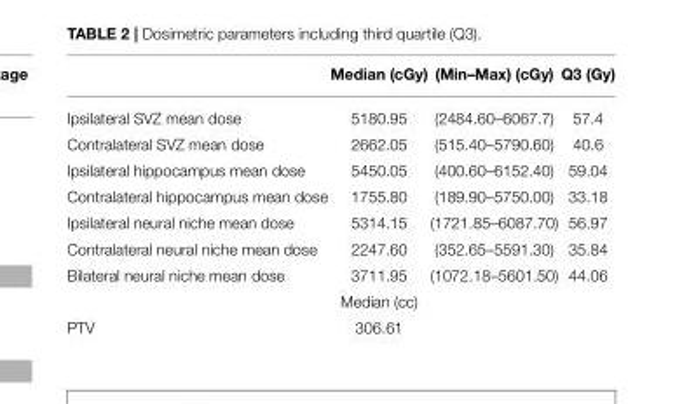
<table><thead><tr><td></td><td>Median (cGy)</td><td>(Min–Max) (cGy)</td><td>Q3 (Gy)</td></tr></thead><tbody><tr><td>Ipsilateral SVZ mean dose</td><td>5180.95</td><td>(2484.60–6067.7)</td><td>57.4</td></tr><tr><td>Contralateral SVZ mean dose</td><td>2662.05</td><td>(515.40–5790.60)</td><td>40.6</td></tr><tr><td>Ipsilateral hippocampus mean dose</td><td>5450.05</td><td>(400.60–6152.40)</td><td>59.04</td></tr><tr><td>Contralateral hippocampus mean dose</td><td>1755.80</td><td>(189.90–5750.00)</td><td>33.18</td></tr><tr><td>Ipsilateral neural niche mean dose</td><td>5314.15</td><td>(1721.85–6087.70)</td><td>56.97</td></tr><tr><td>Contralateral neural niche mean dose</td><td>2247.60</td><td>(352.65–5591.30)</td><td>35.84</td></tr><tr><td rowspan="2">Bilateral neural niche mean dose</td><td>3711.95</td><td>(1072.18–5601.50)</td><td>44.06</td></tr><tr><td>Median (cc)</td><td></td><td></td></tr><tr><td>PTV</td><td>306.61</td><td></td><td></td></tr></tbody></table>